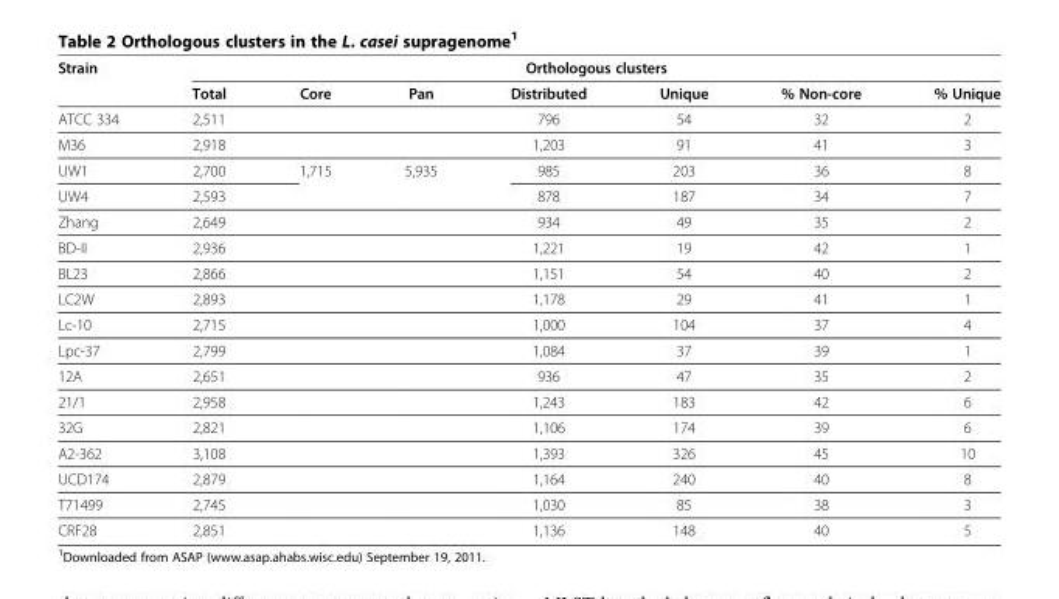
<table><thead><tr><td rowspan="2">Strain</td><td colspan="7">Orthologous clusters</td></tr><tr><td>Total</td><td>Core</td><td>Pan</td><td>Distributed</td><td>Unique</td><td>% Non-core</td><td>% Unique</td></tr></thead><tbody><tr><td>ATCC 334</td><td>2,511</td><td></td><td></td><td>796</td><td>54</td><td>32</td><td>2</td></tr><tr><td>M36</td><td>2,918</td><td></td><td></td><td>1,203</td><td>91</td><td>41</td><td>3</td></tr><tr><td>UW1</td><td>2,700</td><td>1,715</td><td>5,935</td><td>985</td><td>203</td><td>36</td><td>8</td></tr><tr><td>UW4</td><td>2,593</td><td></td><td></td><td>878</td><td>187</td><td>34</td><td>7</td></tr><tr><td>Zhang</td><td>2,649</td><td></td><td></td><td>934</td><td>49</td><td>35</td><td>2</td></tr><tr><td>BD-II</td><td>2,936</td><td></td><td></td><td>1,221</td><td>19</td><td>42</td><td>1</td></tr><tr><td>BL23</td><td>2,866</td><td></td><td></td><td>1,151</td><td>54</td><td>40</td><td>2</td></tr><tr><td>LC2W</td><td>2,893</td><td></td><td></td><td>1,178</td><td>29</td><td>41</td><td>1</td></tr><tr><td>Lc-10</td><td>2,715</td><td></td><td></td><td>1,000</td><td>104</td><td>37</td><td>4</td></tr><tr><td>Lpc-37</td><td>2,799</td><td></td><td></td><td>1,084</td><td>37</td><td>39</td><td>1</td></tr><tr><td>12A</td><td>2,651</td><td></td><td></td><td>936</td><td>47</td><td>35</td><td>2</td></tr><tr><td>21/1</td><td>2,958</td><td></td><td></td><td>1,243</td><td>183</td><td>42</td><td>6</td></tr><tr><td>32G</td><td>2,821</td><td></td><td></td><td>1,106</td><td>174</td><td>39</td><td>6</td></tr><tr><td>A2-362</td><td>3,108</td><td></td><td></td><td>1,393</td><td>326</td><td>45</td><td>10</td></tr><tr><td>UCD174</td><td>2,879</td><td></td><td></td><td>1,164</td><td>240</td><td>40</td><td>8</td></tr><tr><td>T71499</td><td>2,745</td><td></td><td></td><td>1,030</td><td>85</td><td>38</td><td>3</td></tr><tr><td>CRF28</td><td>2,851</td><td></td><td></td><td>1,136</td><td>148</td><td>40</td><td>5</td></tr></tbody></table>